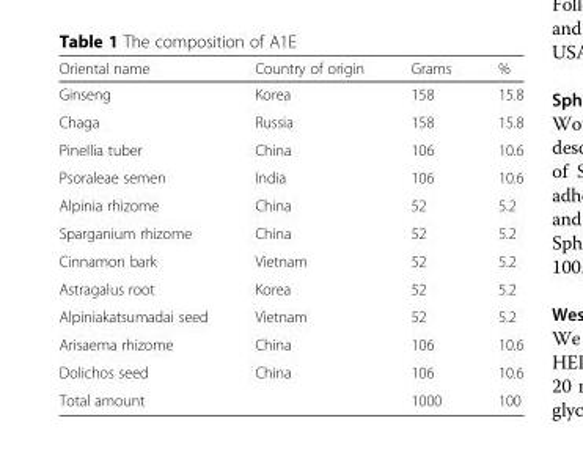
<table><thead><tr><td>Oriental name</td><td>Country of origin</td><td>Grams</td><td>%</td></tr></thead><tbody><tr><td>Ginseng</td><td>Korea</td><td>158</td><td>15.8</td></tr><tr><td>Chaga</td><td>Russia</td><td>158</td><td>15.8</td></tr><tr><td>Pinellia tuber</td><td>China</td><td>106</td><td>10.6</td></tr><tr><td>Psoraleae semen</td><td>India</td><td>106</td><td>10.6</td></tr><tr><td>Alpinia rhizome</td><td>China</td><td>52</td><td>5.2</td></tr><tr><td>Sparganium rhizome</td><td>China</td><td>52</td><td>5.2</td></tr><tr><td>Cinnamon bark</td><td>Vietnam</td><td>52</td><td>5.2</td></tr><tr><td>Astragalus root</td><td>Korea</td><td>52</td><td>5.2</td></tr><tr><td>Alpiniakatsumadai seed</td><td>Vietnam</td><td>52</td><td>5.2</td></tr><tr><td>Arisaema rhizome</td><td>China</td><td>106</td><td>10.6</td></tr><tr><td>Dolichos seed</td><td>China</td><td>106</td><td>10.6</td></tr><tr><td>Total amount</td><td></td><td>1000</td><td>100</td></tr></tbody></table>